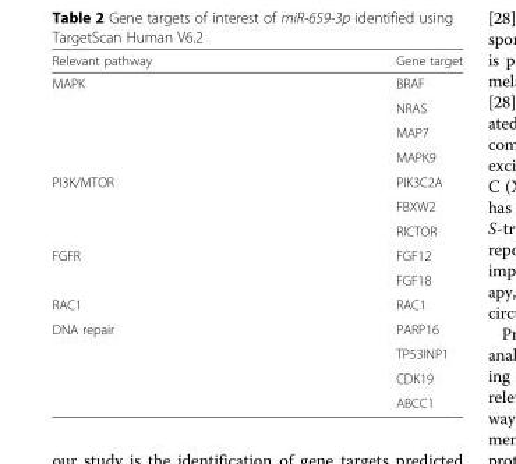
<table><thead><tr><td>Relevant pathway</td><td>Gene target</td></tr></thead><tbody><tr><td rowspan="4">MAPK</td><td>BRAF</td></tr><tr><td>NRAS</td></tr><tr><td>MAP7</td></tr><tr><td>MAPK9</td></tr><tr><td rowspan="3">PI3K/MTOR</td><td>PIK3C2A</td></tr><tr><td>FBXW2</td></tr><tr><td>RICTOR</td></tr><tr><td rowspan="2">FGFR</td><td>FGF12</td></tr><tr><td>FGF18</td></tr><tr><td>RAC1</td><td>RAC1</td></tr><tr><td rowspan="4">DNA repair</td><td>PARP16</td></tr><tr><td>TP53INP1</td></tr><tr><td>CDK19</td></tr><tr><td>ABCC1</td></tr></tbody></table>